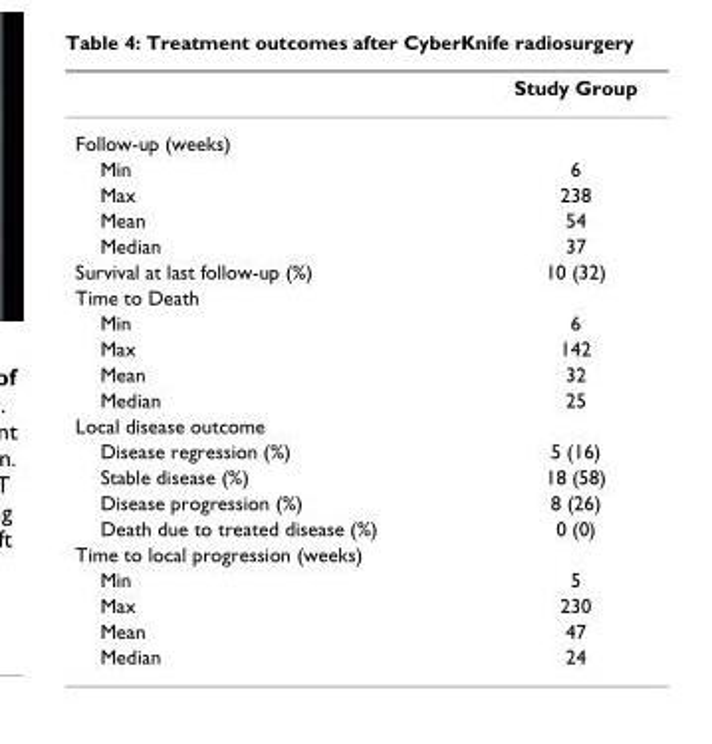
<table><thead><tr><td></td><td>Study Group</td></tr></thead><tbody><tr><td colspan="2">Follow-up (weeks)</td></tr><tr><td>Min</td><td>6</td></tr><tr><td>Max</td><td>238</td></tr><tr><td>Mean</td><td>54</td></tr><tr><td>Median</td><td>37</td></tr><tr><td>Survival at last follow-up (%)</td><td>10 (32)</td></tr><tr><td colspan="2">Time to Death</td></tr><tr><td>Min</td><td>6</td></tr><tr><td>Max</td><td>142</td></tr><tr><td>Mean</td><td>32</td></tr><tr><td>Median</td><td>25</td></tr><tr><td colspan="2">Local disease outcome</td></tr><tr><td>Disease regression (%)</td><td>5 (16)</td></tr><tr><td>Stable disease (%)</td><td>18 (58)</td></tr><tr><td>Disease progression (%)</td><td>8 (26)</td></tr><tr><td>Death due to treated disease (%)</td><td>0 (0)</td></tr><tr><td colspan="2">Time to local progression (weeks)</td></tr><tr><td>Min</td><td>5</td></tr><tr><td>Max</td><td>230</td></tr><tr><td>Mean</td><td>47</td></tr><tr><td>Median</td><td>24</td></tr></tbody></table>